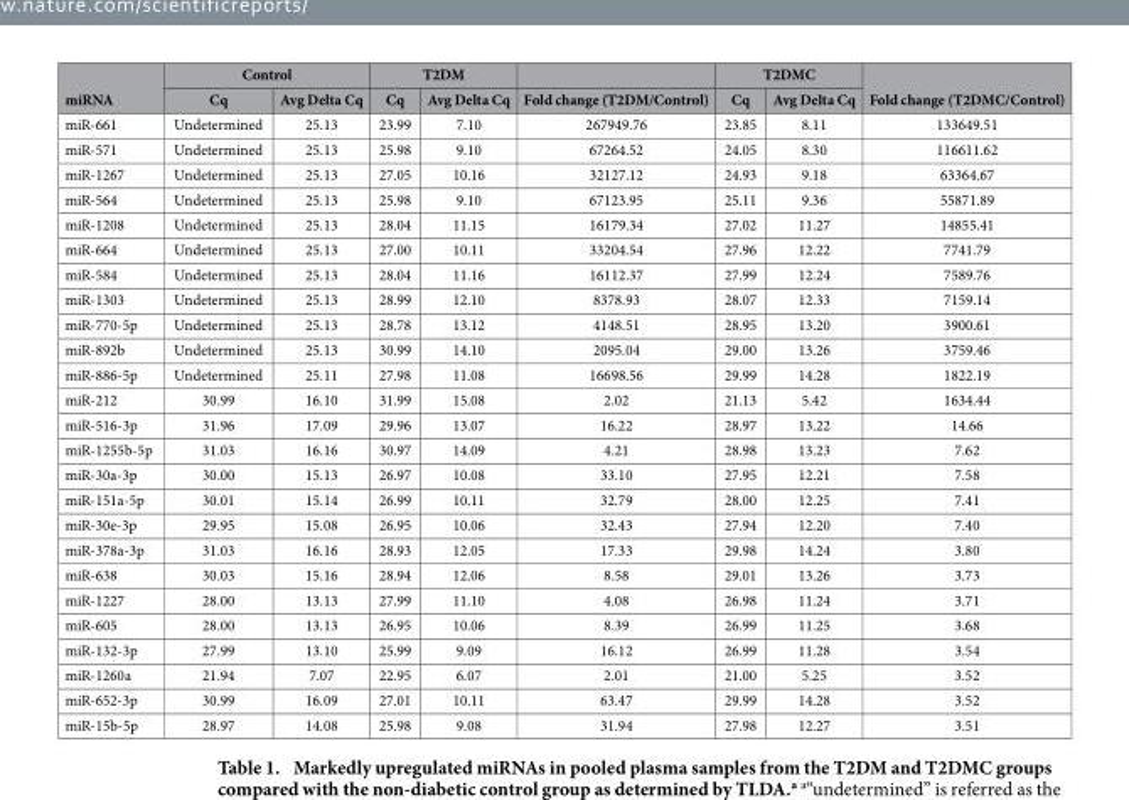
<table><thead><tr><td rowspan="2">miRNA</td><td colspan="2">Control</td><td colspan="2">T2DM</td><td rowspan="2">Fold change (T2DM/Control)</td><td colspan="2">T2DMC</td><td rowspan="2">Fold change (T2DMC/Control)</td></tr><tr><td>Cq</td><td>Avg Delta Cq</td><td>Cq</td><td>Avg Delta Cq</td><td>Cq</td><td>Avg Delta Cq</td></tr></thead><tbody><tr><td>miR-661</td><td>Undetermined</td><td>25.13</td><td>23.99</td><td>7.10</td><td>267949.76</td><td>23.85</td><td>8.11</td><td>133649.51</td></tr><tr><td>miR-571</td><td>Undetermined</td><td>25.13</td><td>25.98</td><td>9.10</td><td>67264.52</td><td>24.05</td><td>8.30</td><td>116611.62</td></tr><tr><td>miR-1267</td><td>Undetermined</td><td>25.13</td><td>27.05</td><td>10.16</td><td>32127.12</td><td>24.93</td><td>9.18</td><td>63364.67</td></tr><tr><td>miR-564</td><td>Undetermined</td><td>25.13</td><td>25.98</td><td>9.10</td><td>67123.95</td><td>25.11</td><td>9.36</td><td>55871.89</td></tr><tr><td>miR-1208</td><td>Undetermined</td><td>25.13</td><td>28.04</td><td>11.15</td><td>16179.34</td><td>27.02</td><td>11.27</td><td>14855.41</td></tr><tr><td>miR-664</td><td>Undetermined</td><td>25.13</td><td>27.00</td><td>10.11</td><td>33204.54</td><td>27.96</td><td>12.22</td><td>7741.79</td></tr><tr><td>miR-584</td><td>Undetermined</td><td>25.13</td><td>28.04</td><td>11.16</td><td>16112.37</td><td>27.99</td><td>12.24</td><td>7589.76</td></tr><tr><td>miR-1303</td><td>Undetermined</td><td>25.13</td><td>28.99</td><td>12.10</td><td>8378.93</td><td>28.07</td><td>12.33</td><td>7159.14</td></tr><tr><td>miR-770-5p</td><td>Undetermined</td><td>25.13</td><td>28.78</td><td>13.12</td><td>4148.51</td><td>28.95</td><td>13.20</td><td>3900.61</td></tr><tr><td>miR-892b</td><td>Undetermined</td><td>25.13</td><td>30.99</td><td>14.10</td><td>2095.04</td><td>29.00</td><td>13.26</td><td>3759.46</td></tr><tr><td>miR-886-5p</td><td>Undetermined</td><td>25.11</td><td>27.98</td><td>11.08</td><td>16698.56</td><td>29.99</td><td>14.28</td><td>1822.19</td></tr><tr><td>miR-212</td><td>30.99</td><td>16.10</td><td>31.99</td><td>15.08</td><td>2.02</td><td>21.13</td><td>5.42</td><td>1634.44</td></tr><tr><td>miR-516-3p</td><td>31.96</td><td>17.09</td><td>29.96</td><td>13.07</td><td>16.22</td><td>28.97</td><td>13.22</td><td>14.66</td></tr><tr><td>miR-1255b-5p</td><td>31.03</td><td>16.16</td><td>30.97</td><td>14.09</td><td>4.21</td><td>28.98</td><td>13.23</td><td>7.62</td></tr><tr><td>miR-30a-3p</td><td>30.00</td><td>15.13</td><td>26.97</td><td>10.08</td><td>33.10</td><td>27.95</td><td>12.21</td><td>7.58</td></tr><tr><td>miR-151a-5p</td><td>30.01</td><td>15.14</td><td>26.99</td><td>10.11</td><td>32.79</td><td>28.00</td><td>12.25</td><td>7.41</td></tr><tr><td>miR-30e-3p</td><td>29.95</td><td>15.08</td><td>26.95</td><td>10.06</td><td>32.43</td><td>27.94</td><td>12.20</td><td>7.40</td></tr><tr><td>miR-378a-3p</td><td>31.03</td><td>16.16</td><td>28.93</td><td>12.05</td><td>17.33</td><td>29.98</td><td>14.24</td><td>3.80</td></tr><tr><td>miR-638</td><td>30.03</td><td>15.16</td><td>28.94</td><td>12.06</td><td>8.58</td><td>29.01</td><td>13.26</td><td>3.73</td></tr><tr><td>miR-1227</td><td>28.00</td><td>13.13</td><td>27.99</td><td>11.10</td><td>4.08</td><td>26.98</td><td>11.24</td><td>3.71</td></tr><tr><td>miR-605</td><td>28.00</td><td>13.13</td><td>26.95</td><td>10.06</td><td>8.39</td><td>26.99</td><td>11.25</td><td>3.68</td></tr><tr><td>miR-132-3p</td><td>27.99</td><td>13.10</td><td>25.99</td><td>9.09</td><td>16.12</td><td>26.99</td><td>11.28</td><td>3.54</td></tr><tr><td>miR-1260a</td><td>21.94</td><td>7.07</td><td>22.95</td><td>6.07</td><td>2.01</td><td>21.00</td><td>5.25</td><td>3.52</td></tr><tr><td>miR-652-3p</td><td>30.99</td><td>16.09</td><td>27.01</td><td>10.11</td><td>63.47</td><td>29.99</td><td>14.28</td><td>3.52</td></tr><tr><td>miR-15b-5p</td><td>28.97</td><td>14.08</td><td>25.98</td><td>9.08</td><td>31.94</td><td>27.98</td><td>12.27</td><td>3.51</td></tr></tbody></table>